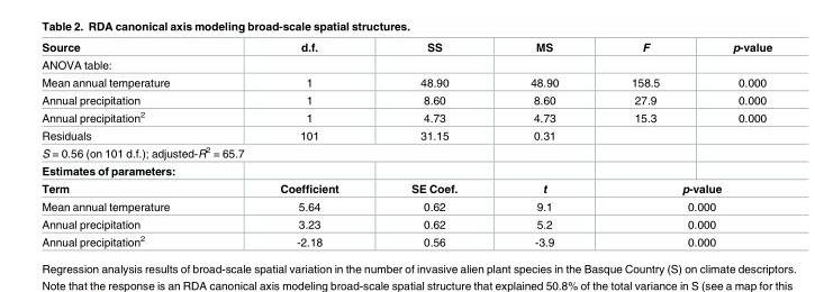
<table><tbody><tr><td>Source</td><td>d.f.</td><td>SS</td><td>MS</td><td>F</td><td>p-value</td></tr><tr><td colspan="6">ANOVA table:</td></tr><tr><td>Mean annual temperature</td><td>1</td><td>48.90</td><td>48.90</td><td>158.5</td><td>0.000</td></tr><tr><td>Annual precipitation</td><td>1</td><td>8.60</td><td>8.60</td><td>27.9</td><td>0.000</td></tr><tr><td>Annual precipitation<sup>2</sup></td><td>1</td><td>4.73</td><td>4.73</td><td>15.3</td><td>0.000</td></tr><tr><td>Residuals</td><td>101</td><td>31.15</td><td>0.31</td><td></td><td></td></tr><tr><td colspan="6">S = 0.56 (on 101 d.f.); adjusted-R<sup>2</sup> = 65.7</td></tr><tr><td colspan="6">Estimates of parameters:</td></tr><tr><td>Term</td><td>Coefficient</td><td>SE Coef.</td><td>t</td><td colspan="2">p-value</td></tr><tr><td>Mean annual temperature</td><td>5.64</td><td>0.62</td><td>9.1</td><td colspan="2">0.000</td></tr><tr><td>Annual precipitation</td><td>3.23</td><td>0.62</td><td>5.2</td><td colspan="2">0.000</td></tr><tr><td>Annual precipitation<sup>2</sup></td><td>-2.18</td><td>0.56</td><td>-3.9</td><td colspan="2">0.000</td></tr></tbody></table>